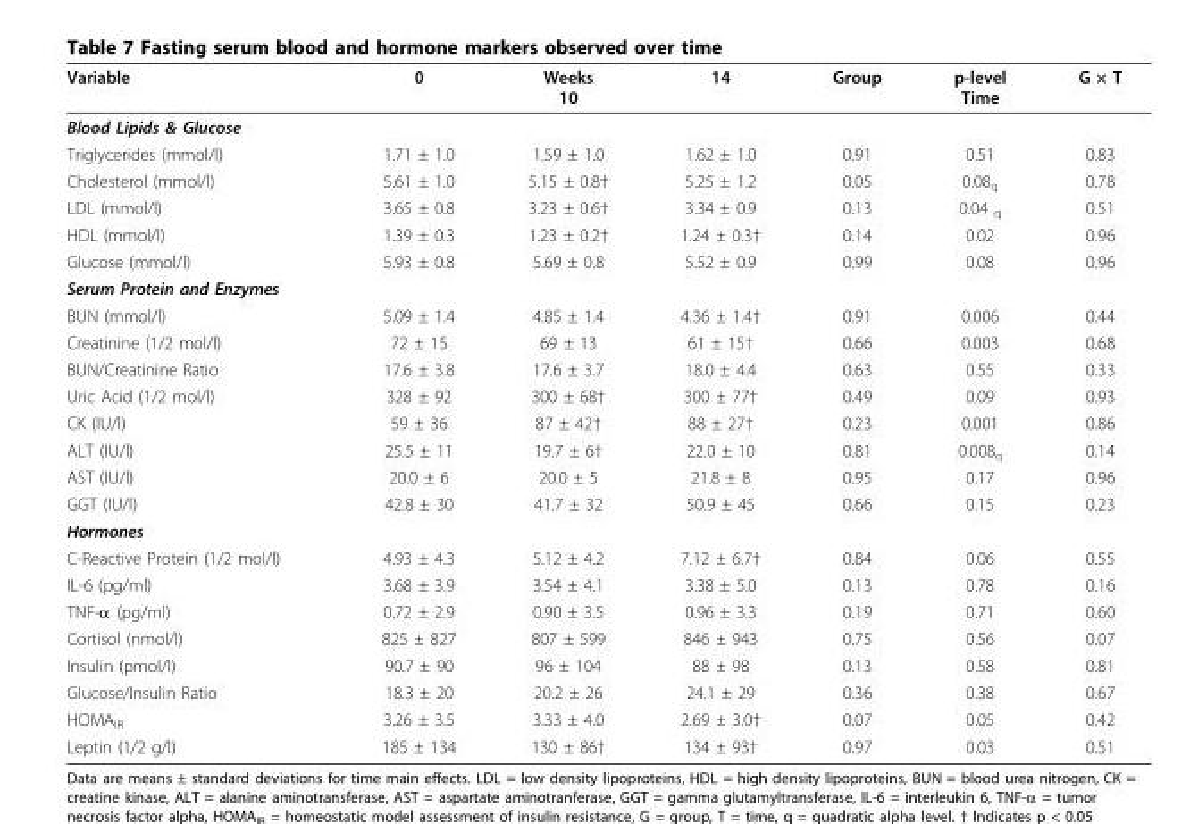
<table><thead><tr><td>Variable</td><td>0</td><td>Weeks 10</td><td>14</td><td>Group</td><td>p-level Time</td><td>G × T</td></tr></thead><tbody><tr><td colspan="7">Blood Lipids &amp; Glucose</td></tr><tr><td>Triglycerides (mmol/l)</td><td>1.71 ± 1.0</td><td>1.59 ± 1.0</td><td>1.62 ± 1.0</td><td>0.91</td><td>0.51</td><td>0.83</td></tr><tr><td>Cholesterol (mmol/l)</td><td>5.61 ± 1.0</td><td>5.15 ± 0.8†</td><td>5.25 ± 1.2</td><td>0.05</td><td>0.08<sub>q</sub></td><td>0.78</td></tr><tr><td>LDL (mmol/l)</td><td>3.65 ± 0.8</td><td>3.23 ± 0.6†</td><td>3.34 ± 0.9</td><td>0.13</td><td>0.04 <sub>q</sub></td><td>0.51</td></tr><tr><td>HDL (mmol/l)</td><td>1.39 ± 0.3</td><td>1.23 ± 0.2†</td><td>1.24 ± 0.3†</td><td>0.14</td><td>0.02</td><td>0.96</td></tr><tr><td>Glucose (mmol/l)</td><td>5.93 ± 0.8</td><td>5.69 ± 0.8</td><td>5.52 ± 0.9</td><td>0.99</td><td>0.08</td><td>0.96</td></tr><tr><td colspan="7">Serum Protein and Enzymes</td></tr><tr><td>BUN (mmol/l)</td><td>5.09 ± 1.4</td><td>4.85 ± 1.4</td><td>4.36 ± 1.4†</td><td>0.91</td><td>0.006</td><td>0.44</td></tr><tr><td>Creatinine (1/2 mol/l)</td><td>72 ± 15</td><td>69 ± 13</td><td>61 ± 15†</td><td>0.66</td><td>0.003</td><td>0.68</td></tr><tr><td>BUN/Creatinine Ratio</td><td>17.6 ± 3.8</td><td>17.6 ± 3.7</td><td>18.0 ± 4.4</td><td>0.63</td><td>0.55</td><td>0.33</td></tr><tr><td>Uric Acid (1/2 mol/l)</td><td>328 ± 92</td><td>300 ± 68†</td><td>300 ± 77†</td><td>0.49</td><td>0.09</td><td>0.93</td></tr><tr><td>CK (IU/l)</td><td>59 ± 36</td><td>87 ± 42†</td><td>88 ± 27†</td><td>0.23</td><td>0.001</td><td>0.86</td></tr><tr><td>ALT (IU/l)</td><td>25.5 ± 11</td><td>19.7 ± 6†</td><td>22.0 ± 10</td><td>0.81</td><td>0.008<sub>q</sub></td><td>0.14</td></tr><tr><td>AST (IU/l)</td><td>20.0 ± 6</td><td>20.0 ± 5</td><td>21.8 ± 8</td><td>0.95</td><td>0.17</td><td>0.96</td></tr><tr><td>GGT (IU/l)</td><td>42.8 ± 30</td><td>41.7 ± 32</td><td>50.9 ± 45</td><td>0.66</td><td>0.15</td><td>0.23</td></tr><tr><td colspan="7">Hormones</td></tr><tr><td>C-Reactive Protein (1/2 mol/l)</td><td>4.93 ± 4.3</td><td>5.12 ± 4.2</td><td>7.12 ± 6.7†</td><td>0.84</td><td>0.06</td><td>0.55</td></tr><tr><td>IL-6 (pg/ml)</td><td>3.68 ± 3.9</td><td>3.54 ± 4.1</td><td>3.38 ± 5.0</td><td>0.13</td><td>0.78</td><td>0.16</td></tr><tr><td>TNF-α (pg/ml)</td><td>0.72 ± 2.9</td><td>0.90 ± 3.5</td><td>0.96 ± 3.3</td><td>0.19</td><td>0.71</td><td>0.60</td></tr><tr><td>Cortisol (nmol/l)</td><td>825 ± 827</td><td>807 ± 599</td><td>846 ± 943</td><td>0.75</td><td>0.56</td><td>0.07</td></tr><tr><td>Insulin (pmol/l)</td><td>90.7 ± 90</td><td>96 ± 104</td><td>88 ± 98</td><td>0.13</td><td>0.58</td><td>0.81</td></tr><tr><td>Glucose/Insulin Ratio</td><td>18.3 ± 20</td><td>20.2 ± 26</td><td>24.1 ± 29</td><td>0.36</td><td>0.38</td><td>0.67</td></tr><tr><td>HOMA<sub>IR</sub></td><td>3.26 ± 3.5</td><td>3.33 ± 4.0</td><td>2.69 ± 3.0†</td><td>0.07</td><td>0.05</td><td>0.42</td></tr><tr><td>Leptin (1/2 g/l)</td><td>185 ± 134</td><td>130 ± 86†</td><td>134 ± 93†</td><td>0.97</td><td>0.03</td><td>0.51</td></tr></tbody></table>